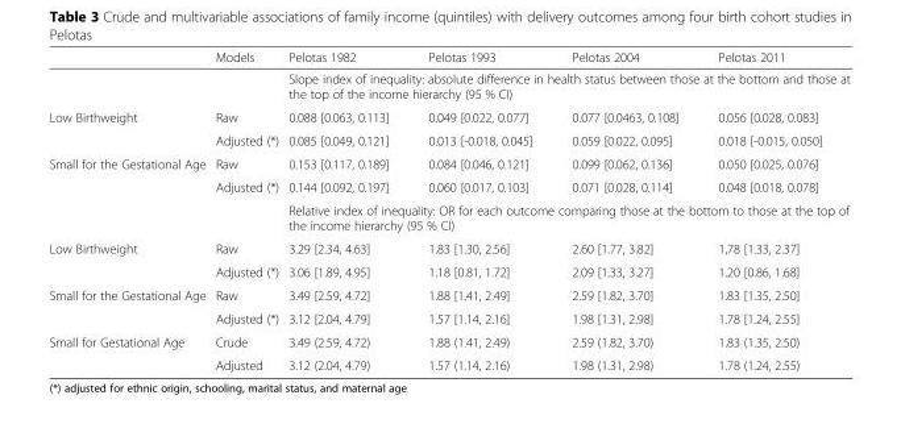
<table><thead><tr><td></td><td>Models</td><td>Pelotas 1982</td><td>Pelotas 1993</td><td>Pelotas 2004</td><td>Pelotas 2011</td></tr></thead><tbody><tr><td colspan="2"></td><td colspan="4">Slope index of inequality: absolute difference in health status between those at the bottom and those at the top of the income hierarchy (95 % CI)</td></tr><tr><td rowspan="2">Low Birthweight</td><td>Raw</td><td>0.088 [0.063, 0.113]</td><td>0.049 [0.022, 0.077]</td><td>0.077 [0.0463, 0.108]</td><td>0.056 [0.028, 0.083]</td></tr><tr><td>Adjusted (*)</td><td>0.085 [0.049, 0.121]</td><td>0.013 [-0.018, 0.045]</td><td>0.059 [0.022, 0.095]</td><td>0.018 [-0.015, 0.050]</td></tr><tr><td rowspan="2">Small for the Gestational Age</td><td>Raw</td><td>0.153 [0.117, 0.189]</td><td>0.084 [0.046, 0.121]</td><td>0.099 [0.062, 0.136]</td><td>0.050 [0.025, 0.076]</td></tr><tr><td>Adjusted (*)</td><td>0.144 [0.092, 0.197]</td><td>0.060 [0.017, 0.103]</td><td>0.071 [0.028, 0.114]</td><td>0.048 [0.018, 0.078]</td></tr><tr><td colspan="2"></td><td colspan="4">Relative index of inequality: OR for each outcome comparing those at the bottom to those at the top of the income hierarchy (95 % CI)</td></tr><tr><td rowspan="2">Low Birthweight</td><td>Raw</td><td>3.29 [2.34, 4.63]</td><td>1.83 [1.30, 2.56]</td><td>2.60 [1.77, 3.82]</td><td>1,78 [1.33, 2.37]</td></tr><tr><td>Adjusted (*)</td><td>3.06 [1.89, 4.95]</td><td>1.18 [0.81, 1.72]</td><td>2.09 [1.33, 3.27]</td><td>1.20 [0.86, 1.68]</td></tr><tr><td rowspan="2">Small for the Gestational Age</td><td>Raw</td><td>3.49 [2.59, 4.72]</td><td>1.88 [1.41, 2.49]</td><td>2.59 [1.82, 3.70]</td><td>1.83 [1.35, 2.50]</td></tr><tr><td>Adjusted (*)</td><td>3.12 [2.04, 4.79]</td><td>1.57 [1.14, 2.16]</td><td>1.98 [1.31, 2.98]</td><td>1.78 [1.24, 2.55]</td></tr><tr><td rowspan="2">Small for Gestational Age</td><td>Crude</td><td>3.49 (2.59, 4.72)</td><td>1.88 (1.41, 2.49)</td><td>2.59 (1.82, 3.70)</td><td>1.83 (1.35, 2.50)</td></tr><tr><td>Adjusted</td><td>3.12 (2.04, 4.79)</td><td>1.57 (1.14, 2.16)</td><td>1.98 (1.31, 2.98)</td><td>1.78 (1.24, 2.55)</td></tr></tbody></table>